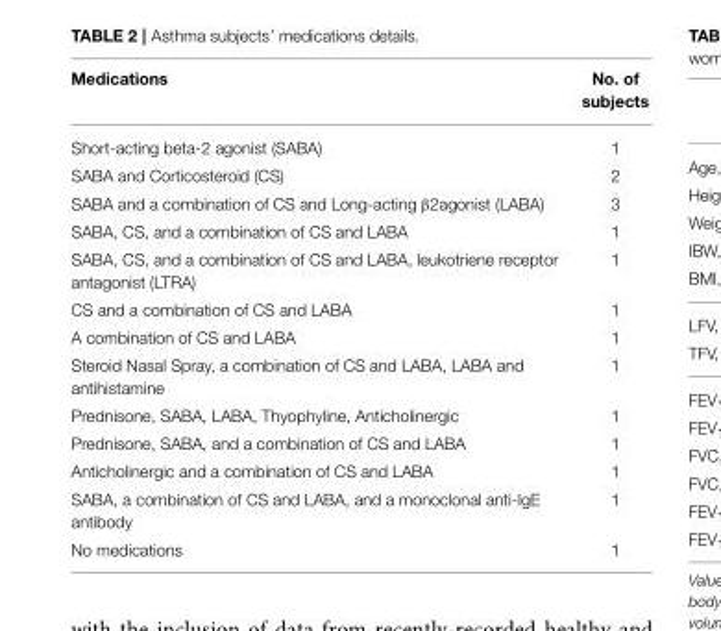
<table><thead><tr><td>Medications</td><td>No. of subjects</td></tr></thead><tbody><tr><td>Short-acting beta-2 agonist (SABA)</td><td>1</td></tr><tr><td>SABA and Corticosteroid (CS)</td><td>2</td></tr><tr><td>SABA and a combination of CS and Long-acting β2agonist (LABA)</td><td>3</td></tr><tr><td>SABA, CS, and a combination of CS and LABA</td><td>1</td></tr><tr><td>SABA, CS, and a combination of CS and LABA, leukotriene receptor antagonist (LTRA)</td><td>1</td></tr><tr><td>CS and a combination of CS and LABA</td><td>1</td></tr><tr><td>A combination of CS and LABA</td><td>1</td></tr><tr><td>Steroid Nasal Spray, a combination of CS and LABA, LABA and antihistamine</td><td>1</td></tr><tr><td>Prednisone, SABA, LABA, Thyophyline, Anticholinergic</td><td>1</td></tr><tr><td>Prednisone, SABA, and a combination of CS and LABA</td><td>1</td></tr><tr><td>Anticholinergic and a combination of CS and LABA</td><td>1</td></tr><tr><td>SABA, a combination of CS and LABA, and a monoclonal anti-IgE antibody</td><td>1</td></tr><tr><td>No medications</td><td>1</td></tr></tbody></table>